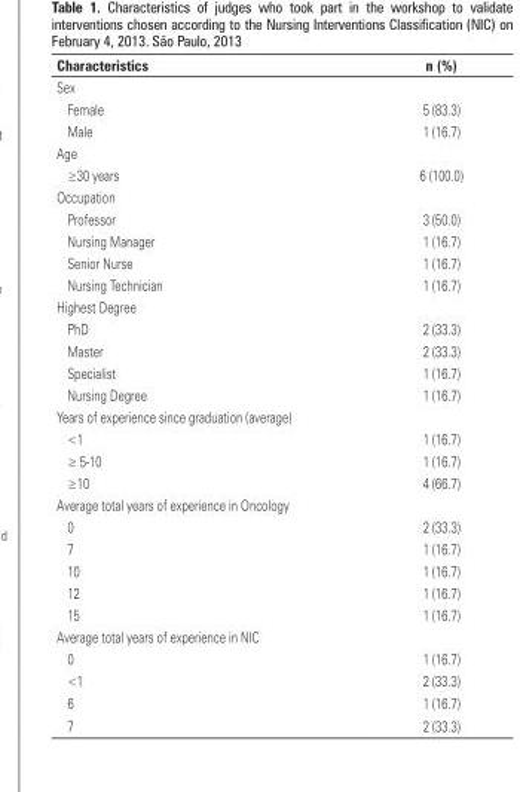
<table><thead><tr><td>Characteristics</td><td>n (%)</td></tr></thead><tbody><tr><td colspan="2">Sex</td></tr><tr><td>Female</td><td>5 (83.3)</td></tr><tr><td>Male</td><td>1 (16.7)</td></tr><tr><td colspan="2">Age</td></tr><tr><td>≥30 years</td><td>6 (100.0)</td></tr><tr><td colspan="2">Occupation</td></tr><tr><td>Professor</td><td>3 (50.0)</td></tr><tr><td>Nursing Manager</td><td>1 (16.7)</td></tr><tr><td>Senior Nurse</td><td>1 (16.7)</td></tr><tr><td>Nursing Technician</td><td>1 (16.7)</td></tr><tr><td colspan="2">Highest Degree</td></tr><tr><td>PhD</td><td>2 (33.3)</td></tr><tr><td>Master</td><td>2 (33.3)</td></tr><tr><td>Specialist</td><td>1 (16.7)</td></tr><tr><td>Nursing Degree</td><td>1 (16.7)</td></tr><tr><td colspan="2">Years of experience since graduation (average)</td></tr><tr><td>&lt;1</td><td>1 (16.7)</td></tr><tr><td>≥ 5-10</td><td>1 (16.7)</td></tr><tr><td>≥10</td><td>4 (66.7)</td></tr><tr><td colspan="2">Average total years of experience in Oncology</td></tr><tr><td>0</td><td>2 (33.3)</td></tr><tr><td>7</td><td>1 (16.7)</td></tr><tr><td>10</td><td>1 (16.7)</td></tr><tr><td>12</td><td>1 (16.7)</td></tr><tr><td>15</td><td>1 (16.7)</td></tr><tr><td colspan="2">Average total years of experience in NIC</td></tr><tr><td>0</td><td>1 (16.7)</td></tr><tr><td>&lt;1</td><td>2 (33.3)</td></tr><tr><td>6</td><td>1 (16.7)</td></tr><tr><td>7</td><td>2 (33.3)</td></tr></tbody></table>